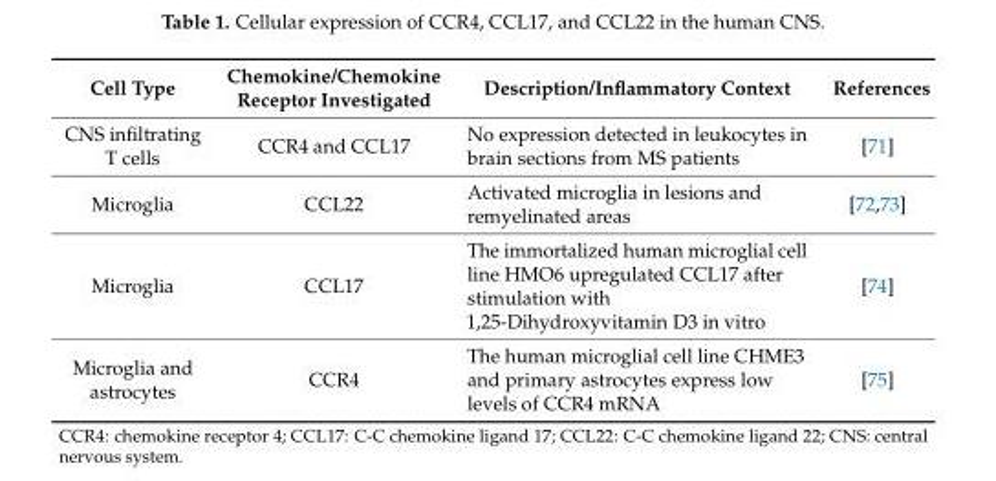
<table><thead><tr><td>Cell Type</td><td>Chemokine/Chemokine Receptor Investigated</td><td>Description/Inflammatory Context</td><td>References</td></tr></thead><tbody><tr><td>CNS infiltrating T cells</td><td>CCR4 and CCL17</td><td>No expression detected in leukocytes in brain sections from MS patients</td><td>[71]</td></tr><tr><td>Microglia</td><td>CCL22</td><td>Activated microglia in lesions and remyelinated areas</td><td>[72,73]</td></tr><tr><td>Microglia</td><td>CCL17</td><td>The immortalized human microglial cell line HMO6 upregulated CCL17 after stimulation with 1,25-Dihydroxyvitamin D3 in vitro</td><td>[74]</td></tr><tr><td>Microglia and astrocytes</td><td>CCR4</td><td>The human microglial cell line CHME3 and primary astrocytes express low levels of CCR4 mRNA</td><td>[75]</td></tr></tbody></table>